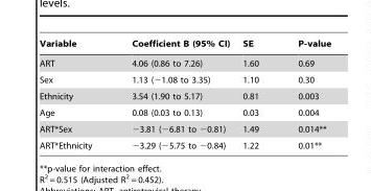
<table><thead><tr><td>Variable</td><td>Coefficient B (95% CI)</td><td>SE</td><td>P-value</td></tr></thead><tbody><tr><td>ART</td><td>4.06 (0.86 to 7.26)</td><td>1.60</td><td>0.69</td></tr><tr><td>Sex</td><td>1.13 (−1.08 to 3.35)</td><td>1.10</td><td>0.30</td></tr><tr><td>Ethnicity</td><td>3.54 (1.90 to 5.17)</td><td>0.81</td><td>0.003</td></tr><tr><td>Age</td><td>0.08 (0.03 to 0.13)</td><td>0.03</td><td>0.004</td></tr><tr><td>ART*Sex</td><td>−3.81 (−6.81 to −0.81)</td><td>1.49</td><td>0.014**</td></tr><tr><td>ART*Ethnicity</td><td>−3.29 (−5.75 to −0.84)</td><td>1.22</td><td>0.01**</td></tr></tbody></table>